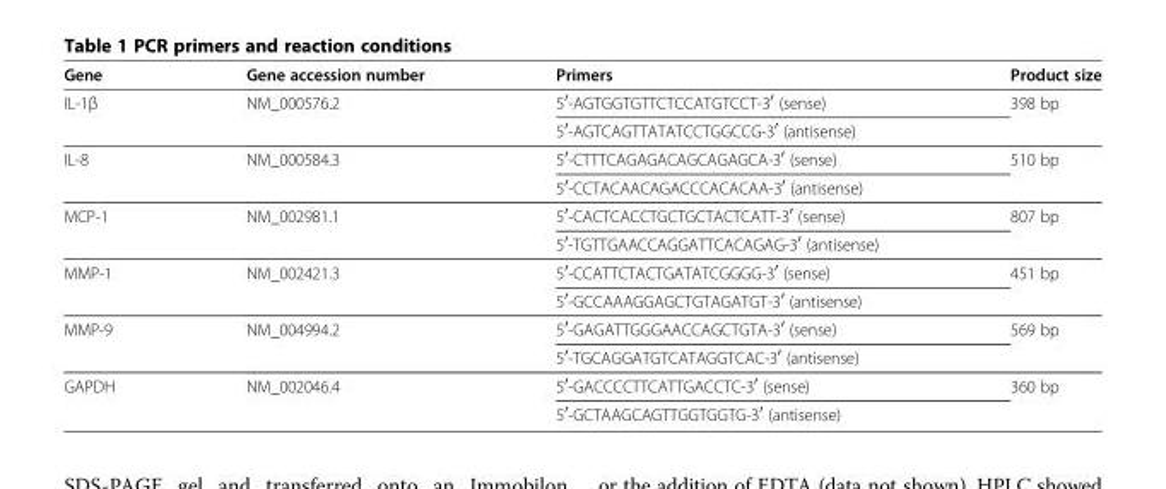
<table><thead><tr><td>Gene</td><td>Gene accession number</td><td>Primers</td><td>Product size</td></tr></thead><tbody><tr><td rowspan="2">IL-1β</td><td rowspan="2">NM_000576.2</td><td>5<sup>′</sup>-AGTGGTGTTCTCCATGTCCT-3<sup>′</sup> (sense)</td><td rowspan="2">398 bp</td></tr><tr><td>5<sup>′</sup>-AGTCAGTTATATCCTGGCCG-3<sup>′</sup> (antisense)</td></tr><tr><td rowspan="2">IL-8</td><td rowspan="2">NM_000584.3</td><td>5<sup>′</sup>-CTTTCAGAGACAGCAGAGCA-3<sup>′</sup> (sense)</td><td rowspan="2">510 bp</td></tr><tr><td>5<sup>′</sup>-CCTACAACAGACCCACACAA-3<sup>′</sup> (antisense)</td></tr><tr><td rowspan="2">MCP-1</td><td rowspan="2">NM_002981.1</td><td>5<sup>′</sup>-CACTCACCTGCTGCTACTCATT-3<sup>′</sup> (sense)</td><td rowspan="2">807 bp</td></tr><tr><td>5<sup>′</sup>-TGTTGAACCAGGATTCACAGAG-3<sup>′</sup> (antisense)</td></tr><tr><td rowspan="2">MMP-1</td><td rowspan="2">NM_002421.3</td><td>5<sup>′</sup>-CCATTCTACTGATATCGGGG-3<sup>′</sup> (sense)</td><td rowspan="2">451 bp</td></tr><tr><td>5<sup>′</sup>-GCCAAAGGAGCTGTAGATGT-3<sup>′</sup> (antisense)</td></tr><tr><td rowspan="2">MMP-9</td><td rowspan="2">NM_004994.2</td><td>5<sup>′</sup>-GAGATTGGGAACCAGCTGTA-3<sup>′</sup> (sense)</td><td rowspan="2">569 bp</td></tr><tr><td>5<sup>′</sup>-TGCAGGATGTCATAGGTCAC-3<sup>′</sup> (antisense)</td></tr><tr><td rowspan="2">GAPDH</td><td rowspan="2">NM_002046.4</td><td>5<sup>′</sup>-GACCCCTTCATTGACCTC-3<sup>′</sup> (sense)</td><td rowspan="2">360 bp</td></tr><tr><td>5<sup>′</sup>-GCTAAGCAGTTGGTGGTG-3<sup>′</sup> (antisense)</td></tr></tbody></table>